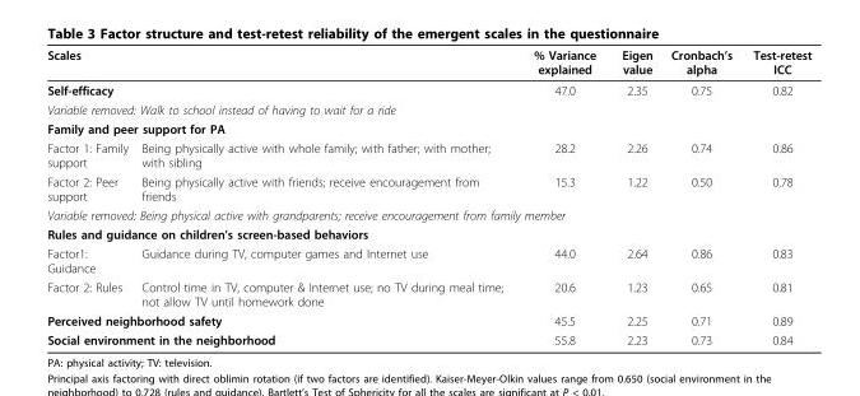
<table><thead><tr><td colspan="2">Scales</td><td>% Variance explained</td><td>Eigen value</td><td>Cronbach’s alpha</td><td>Test-retest ICC</td></tr></thead><tbody><tr><td colspan="2">Self-efficacy</td><td>47.0</td><td>2.35</td><td>0.75</td><td>0.82</td></tr><tr><td colspan="6">Variable removed: Walk to school instead of having to wait for a ride</td></tr><tr><td colspan="6">Family and peer support for PA</td></tr><tr><td>Factor 1: Family support</td><td>Being physically active with whole family; with father; with mother; with sibling</td><td>28.2</td><td>2.26</td><td>0.74</td><td>0.86</td></tr><tr><td>Factor 2: Peer support</td><td>Being physically active with friends; receive encouragement from friends</td><td>15.3</td><td>1.22</td><td>0.50</td><td>0.78</td></tr><tr><td colspan="6">Variable removed: Being physical active with grandparents; receive encouragement from family member</td></tr><tr><td colspan="6">Rules and guidance on children’s screen-based behaviors</td></tr><tr><td>Factor1: Guidance</td><td>Guidance during TV, computer games and Internet use</td><td>44.0</td><td>2.64</td><td>0.86</td><td>0.83</td></tr><tr><td>Factor 2: Rules</td><td>Control time in TV, computer &amp; Internet use; no TV during meal time; not allow TV until homework done</td><td>20.6</td><td>1.23</td><td>0.65</td><td>0.81</td></tr><tr><td colspan="2">Perceived neighborhood safety</td><td>45.5</td><td>2.25</td><td>0.71</td><td>0.89</td></tr><tr><td colspan="2">Social environment in the neighborhood</td><td>55.8</td><td>2.23</td><td>0.73</td><td>0.84</td></tr></tbody></table>